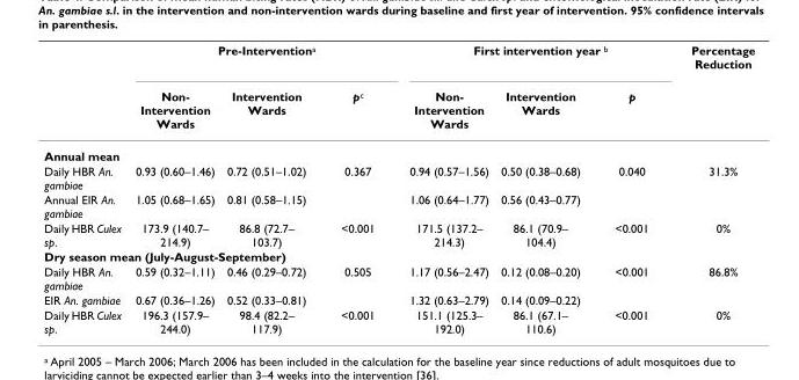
<table><thead><tr><td rowspan="2"></td><td colspan="3">Pre-Intervention<sup>a</sup></td><td colspan="3">First intervention year <sup>b</sup></td><td rowspan="2">Percentage Reduction</td></tr><tr><td>Non- Intervention Wards</td><td>Intervention Wards</td><td>p<sup>c</sup></td><td>Non- Intervention Wards</td><td>Intervention Wards</td><td>p</td></tr></thead><tbody><tr><td colspan="8">Annual mean</td></tr><tr><td>Daily HBR An. gambiae</td><td>0.93 (0.60–1.46)</td><td>0.72 (0.51–1.02)</td><td>0.367</td><td>0.94 (0.57–1.56)</td><td>0.50 (0.38–0.68)</td><td>0.040</td><td>31.3%</td></tr><tr><td>Annual EIR An. gambiae</td><td>1.05 (0.68–1.65)</td><td>0.81 (0.58–1.15)</td><td></td><td>1.06 (0.64–1.77)</td><td>0.56 (0.43–0.77)</td><td></td><td></td></tr><tr><td>Daily HBR Culex sp.</td><td>173.9 (140.7– 214.9)</td><td>86.8 (72.7– 103.7)</td><td>&lt;0.001</td><td>171.5 (137.2– 214.3)</td><td>86.1 (70.9– 104.4)</td><td>&lt;0.001</td><td>0%</td></tr><tr><td colspan="8">Dry season mean (July-August-September)</td></tr><tr><td>Daily HBR An. gambiae</td><td>0.59 (0.32–1.11)</td><td>0.46 (0.29–0.72)</td><td>0.505</td><td>1.17 (0.56–2.47)</td><td>0.12 (0.08–0.20)</td><td>&lt;0.001</td><td>86.8%</td></tr><tr><td>EIR An. gambiae</td><td>0.67 (0.36–1.26)</td><td>0.52 (0.33–0.81)</td><td></td><td>1.32 (0.63–2.79)</td><td>0.14 (0.09–0.22)</td><td></td><td></td></tr><tr><td>Daily HBR Culex sp.</td><td>196.3 (157.9– 244.0)</td><td>98.4 (82.2– 117.9)</td><td>&lt;0.001</td><td>151.1 (125.3– 192.0)</td><td>86.1 (67.1– 110.6)</td><td>&lt;0.001</td><td>0%</td></tr></tbody></table>